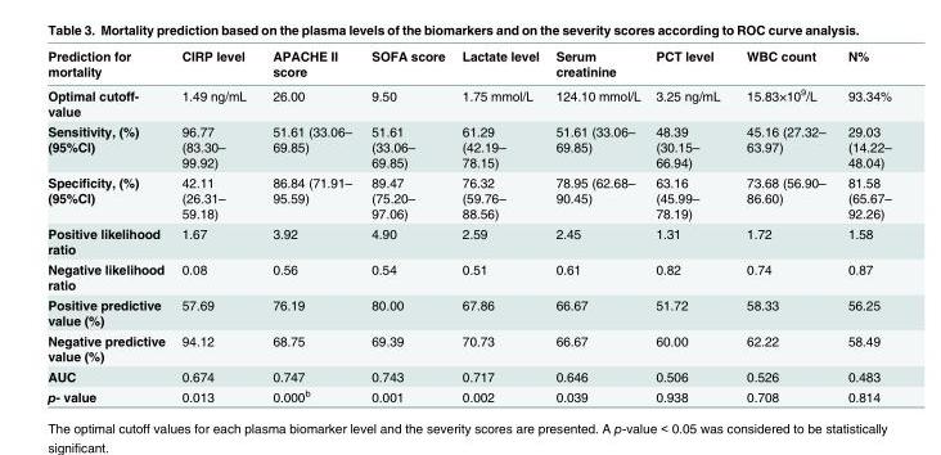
<table><thead><tr><td>Prediction for mortality</td><td>CIRP level</td><td>APACHE II score</td><td>SOFA score</td><td>Lactate level</td><td>Serum creatinine</td><td>PCT level</td><td>WBC count</td><td>N%</td></tr></thead><tbody><tr><td>Optimal cutoff- value</td><td>1.49 ng/mL</td><td>26.00</td><td>9.50</td><td>1.75 mmol/L</td><td>124.10 mmol/L</td><td>3.25 ng/mL</td><td>15.83×10<sup>9</sup>/L</td><td>93.34%</td></tr><tr><td>Sensitivity, (%) (95%CI)</td><td>96.77 (83.30– 99.92)</td><td>51.61 (33.06– 69.85)</td><td>51.61 (33.06– 69.85)</td><td>61.29 (42.19– 78.15)</td><td>51.61 (33.06– 69.85)</td><td>48.39 (30.15– 66.94)</td><td>45.16 (27.32– 63.97)</td><td>29.03 (14.22– 48.04)</td></tr><tr><td>Specificity, (%) (95%CI)</td><td>42.11 (26.31– 59.18)</td><td>86.84 (71.91– 95.59)</td><td>89.47 (75.20– 97.06)</td><td>76.32 (59.76– 88.56)</td><td>78.95 (62.68– 90.45)</td><td>63.16 (45.99– 78.19)</td><td>73.68 (56.90– 86.60)</td><td>81.58 (65.67– 92.26)</td></tr><tr><td>Positive likelihood ratio</td><td>1.67</td><td>3.92</td><td>4.90</td><td>2.59</td><td>2.45</td><td>1.31</td><td>1.72</td><td>1.58</td></tr><tr><td>Negative likelihood ratio</td><td>0.08</td><td>0.56</td><td>0.54</td><td>0.51</td><td>0.61</td><td>0.82</td><td>0.74</td><td>0.87</td></tr><tr><td>Positive predictive value (%)</td><td>57.69</td><td>76.19</td><td>80.00</td><td>67.86</td><td>66.67</td><td>51.72</td><td>58.33</td><td>56.25</td></tr><tr><td>Negative predictive value (%)</td><td>94.12</td><td>68.75</td><td>69.39</td><td>70.73</td><td>66.67</td><td>60.00</td><td>62.22</td><td>58.49</td></tr><tr><td>AUC</td><td>0.674</td><td>0.747</td><td>0.743</td><td>0.717</td><td>0.646</td><td>0.506</td><td>0.526</td><td>0.483</td></tr><tr><td>p- value</td><td>0.013</td><td>0.000<sup>b</sup></td><td>0.001</td><td>0.002</td><td>0.039</td><td>0.938</td><td>0.708</td><td>0.814</td></tr></tbody></table>